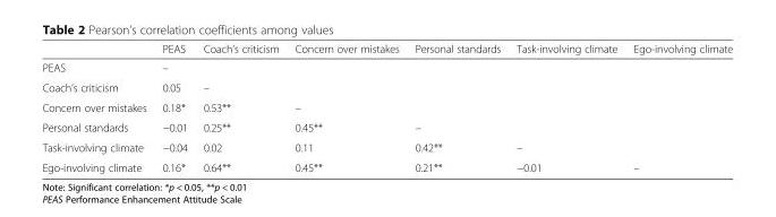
<table><thead><tr><td></td><td>PEAS</td><td>Coach’s criticism</td><td>Concern over mistakes</td><td>Personal standards</td><td>Task-involving climate</td><td>Ego-involving climate</td></tr></thead><tbody><tr><td>PEAS</td><td>–</td><td></td><td></td><td></td><td></td><td></td></tr><tr><td>Coach’s criticism</td><td>0.05</td><td>–</td><td></td><td></td><td></td><td></td></tr><tr><td>Concern over mistakes</td><td>0.18*</td><td>0.53**</td><td>–</td><td></td><td></td><td></td></tr><tr><td>Personal standards</td><td>−0.01</td><td>0.25**</td><td>0.45**</td><td>–</td><td></td><td></td></tr><tr><td>Task-involving climate</td><td>−0.04</td><td>0.02</td><td>0.11</td><td>0.42**</td><td>–</td><td></td></tr><tr><td>Ego-involving climate</td><td>0.16*</td><td>0.64**</td><td>0.45**</td><td>0.21**</td><td>−0.01</td><td>–</td></tr></tbody></table>